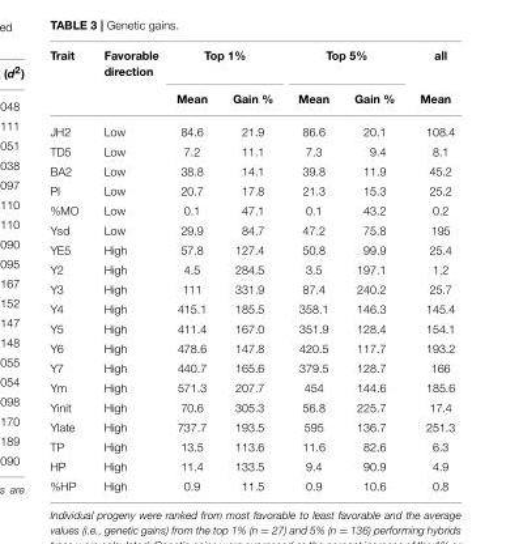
<table><thead><tr><td rowspan="2">Trait</td><td rowspan="2">Favorable direction</td><td colspan="2">Top 1%</td><td colspan="2">Top 5%</td><td rowspan="2">all Mean</td></tr><tr><td>Mean</td><td>Gain %</td><td>Mean</td><td>Gain %</td></tr></thead><tbody><tr><td>JH2</td><td>Low</td><td>84.6</td><td>21.9</td><td>86.6</td><td>20.1</td><td>108.4</td></tr><tr><td>TD5</td><td>Low</td><td>7.2</td><td>11.1</td><td>7.3</td><td>9.4</td><td>8.1</td></tr><tr><td>BA2</td><td>Low</td><td>38.8</td><td>14.1</td><td>39.8</td><td>11.9</td><td>45.2</td></tr><tr><td>PI</td><td>Low</td><td>20.7</td><td>17.8</td><td>21.3</td><td>15.3</td><td>25.2</td></tr><tr><td>%MO</td><td>Low</td><td>0.1</td><td>47.1</td><td>0.1</td><td>43.2</td><td>0.2</td></tr><tr><td>Ysd</td><td>Low</td><td>29.9</td><td>84.7</td><td>47.2</td><td>75.8</td><td>195</td></tr><tr><td>YE5</td><td>High</td><td>57.8</td><td>127.4</td><td>50.8</td><td>99.9</td><td>25.4</td></tr><tr><td>Y2</td><td>High</td><td>4.5</td><td>284.5</td><td>3.5</td><td>197.1</td><td>1.2</td></tr><tr><td>Y3</td><td>High</td><td>111</td><td>331.9</td><td>87.4</td><td>240.2</td><td>25.7</td></tr><tr><td>Y4</td><td>High</td><td>415.1</td><td>185.5</td><td>358.1</td><td>146.3</td><td>145.4</td></tr><tr><td>Y5</td><td>High</td><td>411.4</td><td>167.0</td><td>351.9</td><td>128.4</td><td>154.1</td></tr><tr><td>Y6</td><td>High</td><td>478.6</td><td>147.8</td><td>420.5</td><td>117.7</td><td>193.2</td></tr><tr><td>Y7</td><td>High</td><td>440.7</td><td>165.6</td><td>379.5</td><td>128.7</td><td>166</td></tr><tr><td>Ym</td><td>High</td><td>571.3</td><td>207.7</td><td>454</td><td>144.6</td><td>185.6</td></tr><tr><td>Yinit</td><td>High</td><td>70.6</td><td>305.3</td><td>56.8</td><td>225.7</td><td>17.4</td></tr><tr><td>Ylate</td><td>High</td><td>737.7</td><td>193.5</td><td>595</td><td>136.7</td><td>251.3</td></tr><tr><td>TP</td><td>High</td><td>13.5</td><td>113.6</td><td>11.6</td><td>82.6</td><td>6.3</td></tr><tr><td>HP</td><td>High</td><td>11.4</td><td>133.5</td><td>9.4</td><td>90.9</td><td>4.9</td></tr><tr><td>%HP</td><td>High</td><td>0.9</td><td>11.5</td><td>0.9</td><td>10.6</td><td>0.8</td></tr></tbody></table>